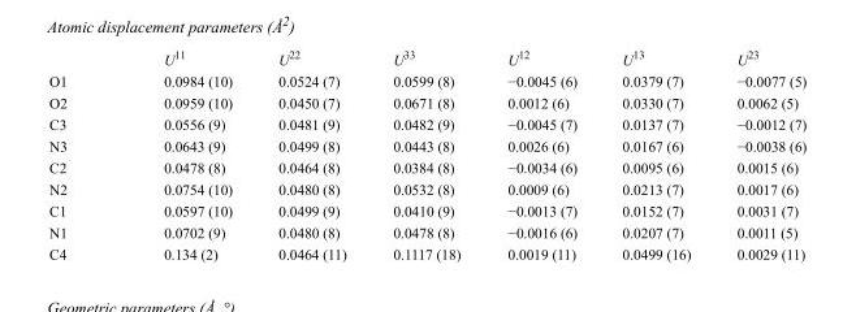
<table><thead><tr><td></td><td>U<sup>11</sup></td><td>U<sup>22</sup></td><td>U<sup>33</sup></td><td>U<sup>12</sup></td><td>U<sup>13</sup></td><td>U<sup>23</sup></td></tr></thead><tbody><tr><td>O1</td><td>0.0984 (10)</td><td>0.0524 (7)</td><td>0.0599 (8)</td><td>−0.0045 (6)</td><td>0.0379 (7)</td><td>−0.0077 (5)</td></tr><tr><td>O2</td><td>0.0959 (10)</td><td>0.0450 (7)</td><td>0.0671 (8)</td><td>0.0012 (6)</td><td>0.0330 (7)</td><td>0.0062 (5)</td></tr><tr><td>C3</td><td>0.0556 (9)</td><td>0.0481 (9)</td><td>0.0482 (9)</td><td>−0.0045 (7)</td><td>0.0137 (7)</td><td>−0.0012 (7)</td></tr><tr><td>N3</td><td>0.0643 (9)</td><td>0.0499 (8)</td><td>0.0443 (8)</td><td>0.0026 (6)</td><td>0.0167 (6)</td><td>−0.0038 (6)</td></tr><tr><td>C2</td><td>0.0478 (8)</td><td>0.0464 (8)</td><td>0.0384 (8)</td><td>−0.0034 (6)</td><td>0.0095 (6)</td><td>0.0015 (6)</td></tr><tr><td>N2</td><td>0.0754 (10)</td><td>0.0480 (8)</td><td>0.0532 (8)</td><td>0.0009 (6)</td><td>0.0213 (7)</td><td>0.0017 (6)</td></tr><tr><td>C1</td><td>0.0597 (10)</td><td>0.0499 (9)</td><td>0.0410 (9)</td><td>−0.0013 (7)</td><td>0.0152 (7)</td><td>0.0031 (7)</td></tr><tr><td>N1</td><td>0.0702 (9)</td><td>0.0480 (8)</td><td>0.0478 (8)</td><td>−0.0016 (6)</td><td>0.0207 (7)</td><td>0.0011 (5)</td></tr><tr><td>C4</td><td>0.134 (2)</td><td>0.0464 (11)</td><td>0.1117 (18)</td><td>0.0019 (11)</td><td>0.0499 (16)</td><td>0.0029 (11)</td></tr></tbody></table>